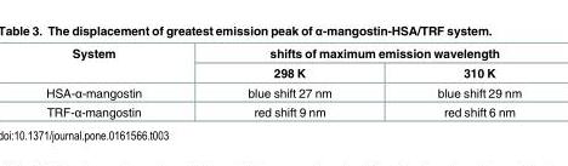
<table><thead><tr><td rowspan="2">System</td><td colspan="2">shifts of maximum emission wavelength</td></tr><tr><td>298 K</td><td>310 K</td></tr></thead><tbody><tr><td>HSA-α-mangostin</td><td>blue shift 27 nm</td><td>blue shift 29 nm</td></tr><tr><td>TRF-α-mangostin</td><td>red shift 9 nm</td><td>red shift 6 nm</td></tr></tbody></table>